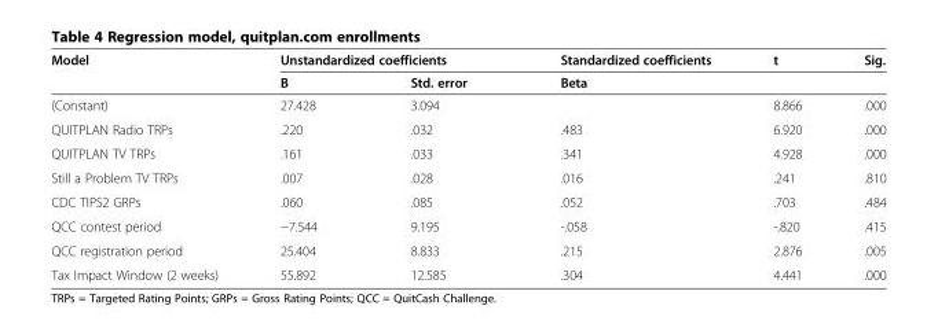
<table><thead><tr><td rowspan="2">Model</td><td colspan="2">Unstandardized coefficients</td><td rowspan="2">Standardized coefficients Beta</td><td rowspan="2">t</td><td rowspan="2">Sig.</td></tr><tr><td>B</td><td>Std. error</td></tr></thead><tbody><tr><td>(Constant)</td><td>27.428</td><td>3.094</td><td></td><td>8.866</td><td>.000</td></tr><tr><td>QUITPLAN Radio TRPs</td><td>.220</td><td>.032</td><td>.483</td><td>6.920</td><td>.000</td></tr><tr><td>QUITPLAN TV TRPs</td><td>.161</td><td>.033</td><td>.341</td><td>4.928</td><td>.000</td></tr><tr><td>Still a Problem TV TRPs</td><td>.007</td><td>.028</td><td>.016</td><td>.241</td><td>.810</td></tr><tr><td>CDC TIPS2 GRPs</td><td>.060</td><td>.085</td><td>.052</td><td>.703</td><td>.484</td></tr><tr><td>QCC contest period</td><td>−7.544</td><td>9.195</td><td>-.058</td><td>-.820</td><td>.415</td></tr><tr><td>QCC registration period</td><td>25.404</td><td>8.833</td><td>.215</td><td>2.876</td><td>.005</td></tr><tr><td>Tax Impact Window (2 weeks)</td><td>55.892</td><td>12.585</td><td>.304</td><td>4.441</td><td>.000</td></tr></tbody></table>